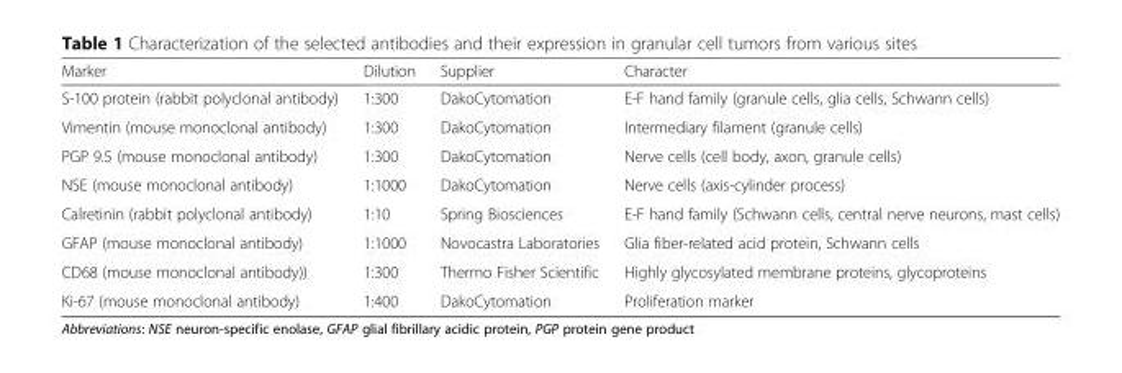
<table><thead><tr><td>Marker</td><td>Dilution</td><td>Supplier</td><td>Character</td></tr></thead><tbody><tr><td>S-100 protein (rabbit polyclonal antibody)</td><td>1:300</td><td>DakoCytomation</td><td>E-F hand family (granule cells, glia cells, Schwann cells)</td></tr><tr><td>Vimentin (mouse monoclonal antibody)</td><td>1:300</td><td>DakoCytomation</td><td>Intermediary filament (granule cells)</td></tr><tr><td>PGP 9.5 (mouse monoclonal antibody)</td><td>1:300</td><td>DakoCytomation</td><td>Nerve cells (cell body, axon, granule cells)</td></tr><tr><td>NSE (mouse monoclonal antibody)</td><td>1:1000</td><td>DakoCytomation</td><td>Nerve cells (axis-cylinder process)</td></tr><tr><td>Calretinin (rabbit polyclonal antibody)</td><td>1:10</td><td>Spring Biosciences</td><td>E-F hand family (Schwann cells, central nerve neurons, mast cells)</td></tr><tr><td>GFAP (mouse monoclonal antibody)</td><td>1:1000</td><td>Novocastra Laboratories</td><td>Glia fiber-related acid protein, Schwann cells</td></tr><tr><td>CD68 (mouse monoclonal antibody))</td><td>1:300</td><td>Thermo Fisher Scientific</td><td>Highly glycosylated membrane proteins, glycoproteins</td></tr><tr><td>Ki-67 (mouse monoclonal antibody)</td><td>1:400</td><td>DakoCytomation</td><td>Proliferation marker</td></tr></tbody></table>